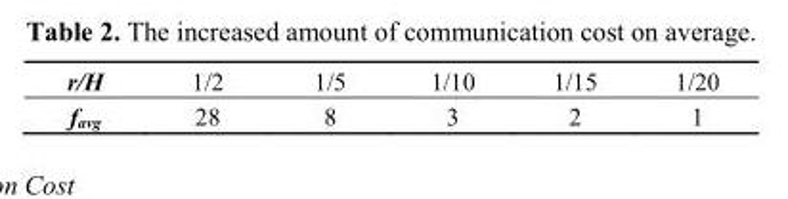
<table><tbody><tr><td>r/H</td><td>1/2</td><td>1/5</td><td>1/10</td><td>1/15</td><td>1/20</td></tr><tr><td>f<sub>avg</sub></td><td>28</td><td>8</td><td>3</td><td>2</td><td>1</td></tr></tbody></table>